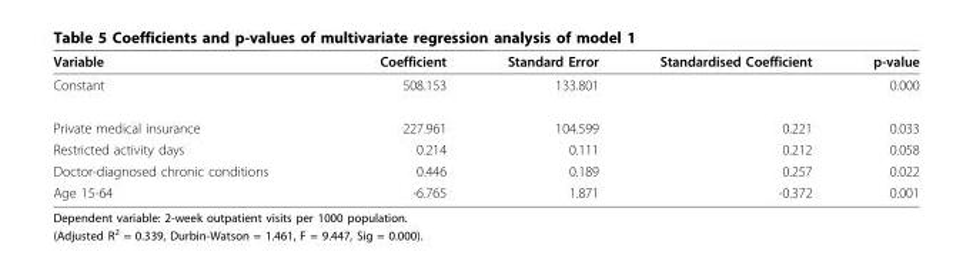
<table><thead><tr><td>Variable</td><td>Coefficient</td><td>Standard Error</td><td>Standardised Coefficient</td><td>p-value</td></tr></thead><tbody><tr><td>Constant</td><td>508.153</td><td>133.801</td><td></td><td>0.000</td></tr><tr><td>Private medical insurance</td><td>227.961</td><td>104.599</td><td>0.221</td><td>0.033</td></tr><tr><td>Restricted activity days</td><td>0.214</td><td>0.111</td><td>0.212</td><td>0.058</td></tr><tr><td>Doctor-diagnosed chronic conditions</td><td>0.446</td><td>0.189</td><td>0.257</td><td>0.022</td></tr><tr><td>Age 15-64</td><td>-6.765</td><td>1.871</td><td>-0.372</td><td>0.001</td></tr></tbody></table>